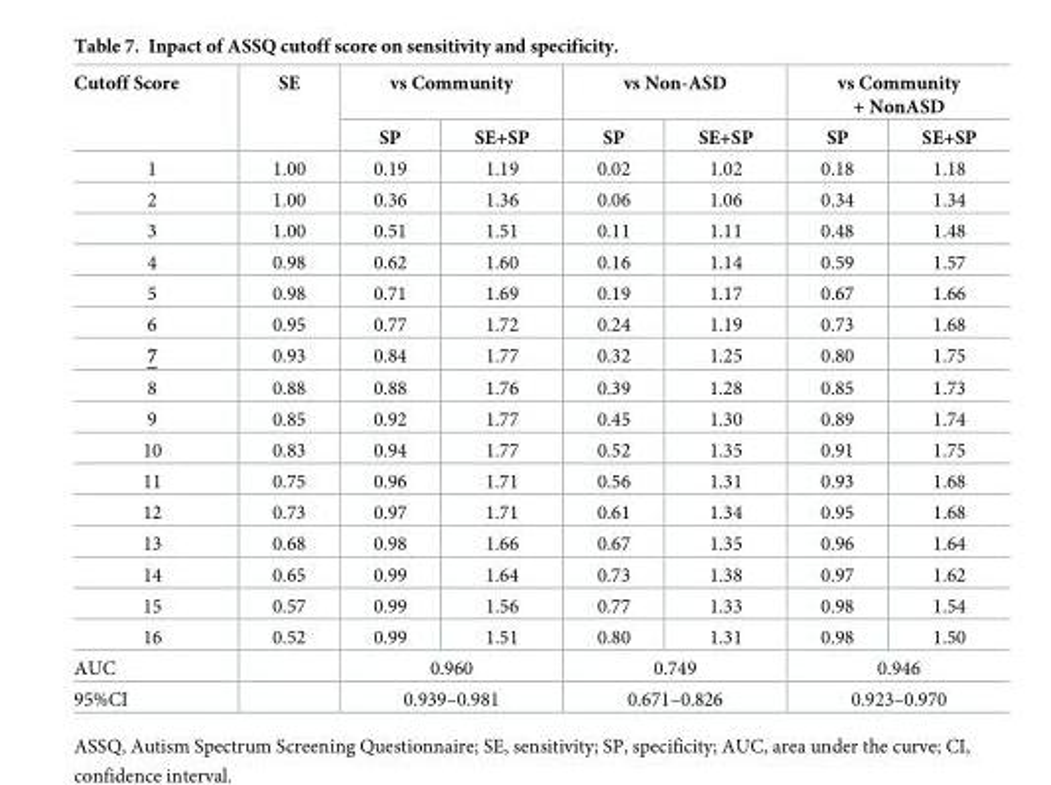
<table><thead><tr><td rowspan="2">Cutoff Score</td><td rowspan="2">SE</td><td colspan="2">vs Community</td><td colspan="2">vs Non-ASD</td><td colspan="2">vs Community + NonASD</td></tr><tr><td>SP</td><td>SE+SP</td><td>SP</td><td>SE+SP</td><td>SP</td><td>SE+SP</td></tr></thead><tbody><tr><td>1</td><td>1.00</td><td>0.19</td><td>1.19</td><td>0.02</td><td>1.02</td><td>0.18</td><td>1.18</td></tr><tr><td>2</td><td>1.00</td><td>0.36</td><td>1.36</td><td>0.06</td><td>1.06</td><td>0.34</td><td>1.34</td></tr><tr><td>3</td><td>1.00</td><td>0.51</td><td>1.51</td><td>0.11</td><td>1.11</td><td>0.48</td><td>1.48</td></tr><tr><td>4</td><td>0.98</td><td>0.62</td><td>1.60</td><td>0.16</td><td>1.14</td><td>0.59</td><td>1.57</td></tr><tr><td>5</td><td>0.98</td><td>0.71</td><td>1.69</td><td>0.19</td><td>1.17</td><td>0.67</td><td>1.66</td></tr><tr><td>6</td><td>0.95</td><td>0.77</td><td>1.72</td><td>0.24</td><td>1.19</td><td>0.73</td><td>1.68</td></tr><tr><td>7</td><td>0.93</td><td>0.84</td><td>1.77</td><td>0.32</td><td>1.25</td><td>0.80</td><td>1.75</td></tr><tr><td>8</td><td>0.88</td><td>0.88</td><td>1.76</td><td>0.39</td><td>1.28</td><td>0.85</td><td>1.73</td></tr><tr><td>9</td><td>0.85</td><td>0.92</td><td>1.77</td><td>0.45</td><td>1.30</td><td>0.89</td><td>1.74</td></tr><tr><td>10</td><td>0.83</td><td>0.94</td><td>1.77</td><td>0.52</td><td>1.35</td><td>0.91</td><td>1.75</td></tr><tr><td>11</td><td>0.75</td><td>0.96</td><td>1.71</td><td>0.56</td><td>1.31</td><td>0.93</td><td>1.68</td></tr><tr><td>12</td><td>0.73</td><td>0.97</td><td>1.71</td><td>0.61</td><td>1.34</td><td>0.95</td><td>1.68</td></tr><tr><td>13</td><td>0.68</td><td>0.98</td><td>1.66</td><td>0.67</td><td>1.35</td><td>0.96</td><td>1.64</td></tr><tr><td>14</td><td>0.65</td><td>0.99</td><td>1.64</td><td>0.73</td><td>1.38</td><td>0.97</td><td>1.62</td></tr><tr><td>15</td><td>0.57</td><td>0.99</td><td>1.56</td><td>0.77</td><td>1.33</td><td>0.98</td><td>1.54</td></tr><tr><td>16</td><td>0.52</td><td>0.99</td><td>1.51</td><td>0.80</td><td>1.31</td><td>0.98</td><td>1.50</td></tr><tr><td>AUC</td><td></td><td colspan="2">0.960</td><td colspan="2">0.749</td><td colspan="2">0.946</td></tr><tr><td>95%CI</td><td></td><td colspan="2">0.939–0.981</td><td colspan="2">0.671–0.826</td><td colspan="2">0.923–0.970</td></tr></tbody></table>